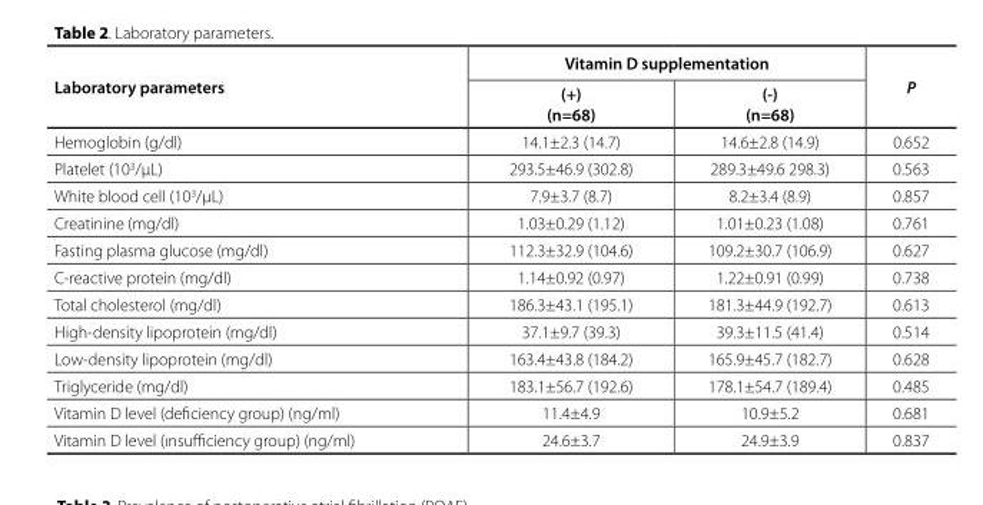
<table><thead><tr><td rowspan="2">Laboratory parameters</td><td colspan="2">Vitamin D supplementation</td><td rowspan="2">P</td></tr><tr><td>(+) (n=68)</td><td>(-) (n=68)</td></tr></thead><tbody><tr><td>Hemoglobin (g/dl)</td><td>14.1±2.3 (14.7)</td><td>14.6±2.8 (14.9)</td><td>0.652</td></tr><tr><td>Platelet (10<sup>3</sup>/µL)</td><td>293.5±46.9 (302.8)</td><td>289.3±49.6 298.3)</td><td>0.563</td></tr><tr><td>White blood cell (10<sup>3</sup>/µL)</td><td>7.9±3.7 (8.7)</td><td>8.2±3.4 (8.9)</td><td>0.857</td></tr><tr><td>Creatinine (mg/dl)</td><td>1.03±0.29 (1.12)</td><td>1.01±0.23 (1.08)</td><td>0.761</td></tr><tr><td>Fasting plasma glucose (mg/dl)</td><td>112.3±32.9 (104.6)</td><td>109.2±30.7 (106.9)</td><td>0.627</td></tr><tr><td>C-reactive protein (mg/dl)</td><td>1.14±0.92 (0.97)</td><td>1.22±0.91 (0.99)</td><td>0.738</td></tr><tr><td>Total cholesterol (mg/dl)</td><td>186.3±43.1 (195.1)</td><td>181.3±44.9 (192.7)</td><td>0.613</td></tr><tr><td>High-density lipoprotein (mg/dl)</td><td>37.1±9.7 (39.3)</td><td>39.3±11.5 (41.4)</td><td>0.514</td></tr><tr><td>Low-density lipoprotein (mg/dl)</td><td>163.4±43.8 (184.2)</td><td>165.9±45.7 (182.7)</td><td>0.628</td></tr><tr><td>Triglyceride (mg/dl)</td><td>183.1±56.7 (192.6)</td><td>178.1±54.7 (189.4)</td><td>0.485</td></tr><tr><td>Vitamin D level (deficiency group) (ng/ml)</td><td>11.4±4.9</td><td>10.9±5.2</td><td>0.681</td></tr><tr><td>Vitamin D level (ınsufficiency group) (ng/ml)</td><td>24.6±3.7</td><td>24.9±3.9</td><td>0.837</td></tr></tbody></table>